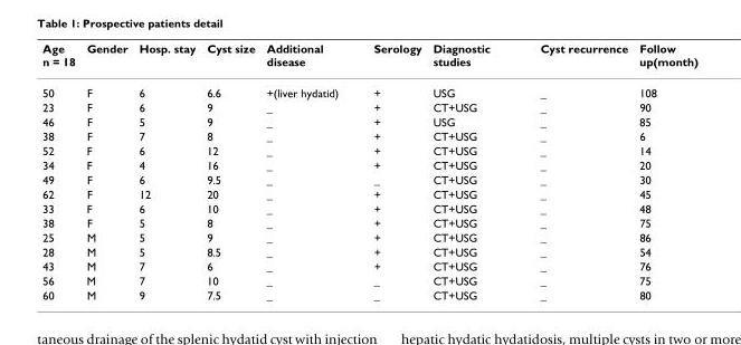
<table><thead><tr><td>Age n = 18</td><td>Gender</td><td>Hosp. stay</td><td>Cyst size</td><td>Additional disease</td><td>Serology</td><td>Diagnostic studies</td><td>Cyst recurrence</td><td>Follow up(month)</td></tr></thead><tbody><tr><td>50</td><td>F</td><td>6</td><td>6.6</td><td>+(liver hydatid)</td><td>+</td><td>USG</td><td>_</td><td>108</td></tr><tr><td>23</td><td>F</td><td>6</td><td>9</td><td>_</td><td>+</td><td>CT+USG</td><td>_</td><td>90</td></tr><tr><td>46</td><td>F</td><td>5</td><td>9</td><td>_</td><td>+</td><td>USG</td><td>_</td><td>85</td></tr><tr><td>38</td><td>F</td><td>7</td><td>8</td><td>_</td><td>+</td><td>CT+USG</td><td>_</td><td>6</td></tr><tr><td>52</td><td>F</td><td>6</td><td>12</td><td>_</td><td>+</td><td>CT+USG</td><td>_</td><td>14</td></tr><tr><td>34</td><td>F</td><td>4</td><td>16</td><td>_</td><td>+</td><td>CT+USG</td><td>_</td><td>20</td></tr><tr><td>49</td><td>F</td><td>6</td><td>9.5</td><td>_</td><td>_</td><td>CT+USG</td><td>_</td><td>30</td></tr><tr><td>62</td><td>F</td><td>12</td><td>20</td><td>_</td><td>+</td><td>CT+USG</td><td>_</td><td>45</td></tr><tr><td>33</td><td>F</td><td>6</td><td>10</td><td>_</td><td>+</td><td>CT+USG</td><td>_</td><td>48</td></tr><tr><td>38</td><td>F</td><td>5</td><td>8</td><td>_</td><td>+</td><td>CT+USG</td><td>_</td><td>75</td></tr><tr><td>25</td><td>M</td><td>5</td><td>9</td><td>_</td><td>+</td><td>CT+USG</td><td>_</td><td>86</td></tr><tr><td>28</td><td>M</td><td>5</td><td>8.5</td><td>_</td><td>+</td><td>CT+USG</td><td>_</td><td>54</td></tr><tr><td>43</td><td>M</td><td>7</td><td>6</td><td>_</td><td>+</td><td>CT+USG</td><td>_</td><td>76</td></tr><tr><td>56</td><td>M</td><td>7</td><td>10</td><td>_</td><td>_</td><td>CT+USG</td><td>_</td><td>75</td></tr><tr><td>60</td><td>M</td><td>9</td><td>7.5</td><td>_</td><td>_</td><td>CT+USG</td><td>_</td><td>80</td></tr></tbody></table>